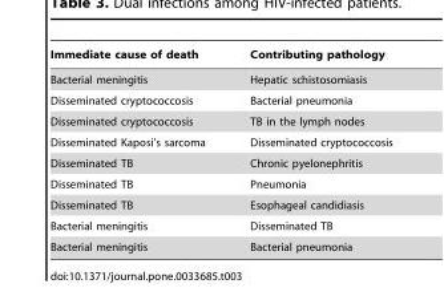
<table><thead><tr><td>Immediate cause of death</td><td>Contributing pathology</td></tr></thead><tbody><tr><td>Bacterial meningitis</td><td>Hepatic schistosomiasis</td></tr><tr><td>Disseminated cryptococcosis</td><td>Bacterial pneumonia</td></tr><tr><td>Disseminated cryptococcosis</td><td>TB in the lymph nodes</td></tr><tr><td>Disseminated Kaposi’s sarcoma</td><td>Disseminated cryptococcosis</td></tr><tr><td>Disseminated TB</td><td>Chronic pyelonephritis</td></tr><tr><td>Disseminated TB</td><td>Pneumonia</td></tr><tr><td>Disseminated TB</td><td>Esophageal candidiasis</td></tr><tr><td>Bacterial meningitis</td><td>Disseminated TB</td></tr><tr><td>Bacterial meningitis</td><td>Bacterial pneumonia</td></tr></tbody></table>